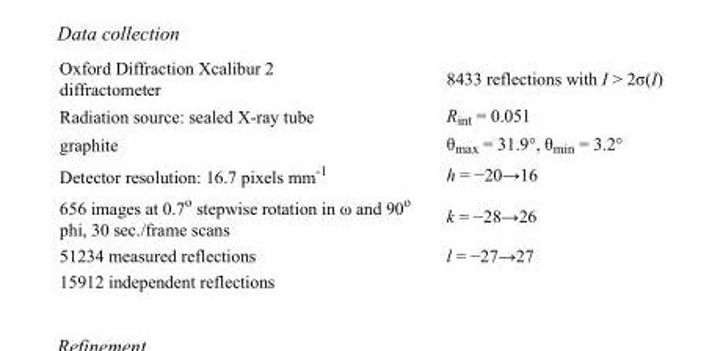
<table><tbody><tr><td>Oxford Diffraction Xcalibur 2 diffractometer</td><td>8433 reflections with I &gt; 2σ(I)</td></tr><tr><td>Radiation source: sealed X-ray tube</td><td>R<sub>int</sub> = 0.051</td></tr><tr><td>graphite</td><td>θ<sub>max</sub> = 31.9°, θ<sub>min</sub> = 3.2°</td></tr><tr><td>Detector resolution: 16.7 pixels mm<sup>-1</sup></td><td>h = −20→16</td></tr><tr><td>656 images at 0.7<sup>o</sup> stepwise rotation in ω and 90<sup>o</sup> phi, 30 sec./frame scans</td><td>k = −28→26</td></tr><tr><td>51234 measured reflections</td><td>l = −27→27</td></tr><tr><td>15912 independent reflections</td><td></td></tr></tbody></table>